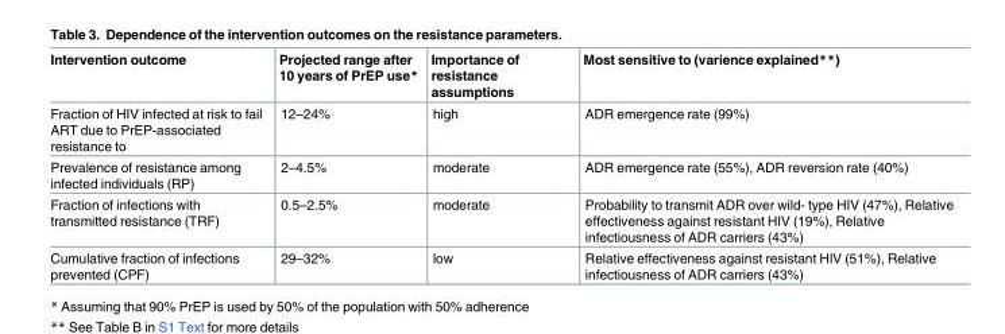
<table><thead><tr><td>Intervention outcome</td><td>Projected range after 10 years of PrEP use*</td><td>Importance of resistance assumptions</td><td>Most sensitive to (varience explained**)</td></tr></thead><tbody><tr><td>Fraction of HIV infected at risk to fail ART due to PrEP-associated resistance to</td><td>12–24%</td><td>high</td><td>ADR emergence rate (99%)</td></tr><tr><td>Prevalence of resistance among infected individuals (RP)</td><td>2–4.5%</td><td>moderate</td><td>ADR emergence rate (55%), ADR reversion rate (40%)</td></tr><tr><td>Fraction of infections with transmitted resistance (TRF)</td><td>0.5–2.5%</td><td>moderate</td><td>Probability to transmit ADR over wild- type HIV (47%), Relative effectiveness against resistant HIV (19%), Relative infectiousness of ADR carriers (43%)</td></tr><tr><td>Cumulative fraction of infections prevented (CPF)</td><td>29–32%</td><td>low</td><td>Relative effectiveness against resistant HIV (51%), Relative infectiousness of ADR carriers (43%)</td></tr></tbody></table>